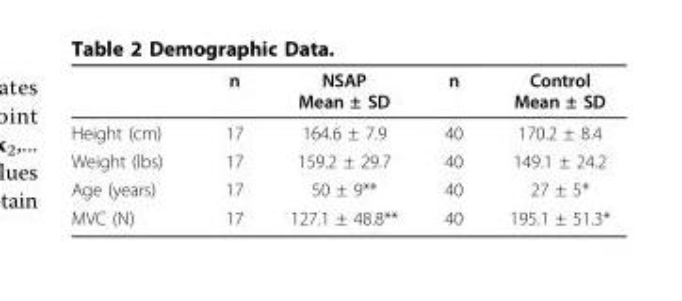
<table><thead><tr><td></td><td>n</td><td>NSAP Mean ± SD</td><td>n</td><td>Control Mean ± SD</td></tr></thead><tbody><tr><td>Height (cm)</td><td>17</td><td>164.6 ± 7.9</td><td>40</td><td>170.2 ± 8.4</td></tr><tr><td>Weight (lbs)</td><td>17</td><td>159.2 ± 29.7</td><td>40</td><td>149.1 ± 24.2</td></tr><tr><td>Age (years)</td><td>17</td><td>50 ± 9**</td><td>40</td><td>27 ± 5*</td></tr><tr><td>MVC (N)</td><td>17</td><td>127.1 ± 48.8**</td><td>40</td><td>195.1 ± 51.3*</td></tr></tbody></table>